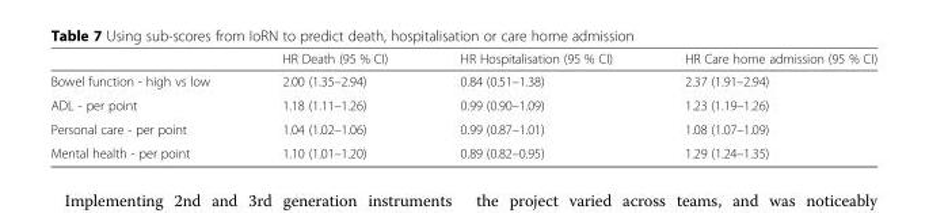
<table><thead><tr><td></td><td>HR Death (95 % CI)</td><td>HR Hospitalisation (95 % CI)</td><td>HR Care home admission (95 % CI)</td></tr></thead><tbody><tr><td>Bowel function - high vs low</td><td>2.00 (1.35–2.94)</td><td>0.84 (0.51–1.38)</td><td>2.37 (1.91–2.94)</td></tr><tr><td>ADL - per point</td><td>1.18 (1.11–1.26)</td><td>0.99 (0.90–1.09)</td><td>1.23 (1.19–1.26)</td></tr><tr><td>Personal care - per point</td><td>1.04 (1.02–1.06)</td><td>0.99 (0.87–1.01)</td><td>1.08 (1.07–1.09)</td></tr><tr><td>Mental health - per point</td><td>1.10 (1.01–1.20)</td><td>0.89 (0.82–0.95)</td><td>1.29 (1.24–1.35)</td></tr></tbody></table>